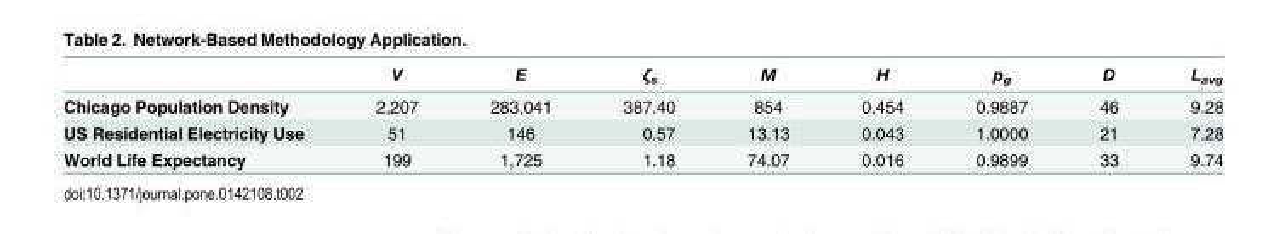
<table><thead><tr><td></td><td>V</td><td>E</td><td>ζ<sub>s</sub></td><td>M</td><td>H</td><td>p<sub>g</sub></td><td>D</td><td>L<sub>avg</sub></td></tr></thead><tbody><tr><td>Chicago Population Density</td><td>2,207</td><td>283,041</td><td>387.40</td><td>854</td><td>0.454</td><td>0.9887</td><td>46</td><td>9.28</td></tr><tr><td>US Residential Electricity Use</td><td>51</td><td>146</td><td>0.57</td><td>13.13</td><td>0.043</td><td>1.0000</td><td>21</td><td>7.28</td></tr><tr><td>World Life Expectancy</td><td>199</td><td>1,725</td><td>1.18</td><td>74.07</td><td>0.016</td><td>0.9899</td><td>33</td><td>9.74</td></tr></tbody></table>